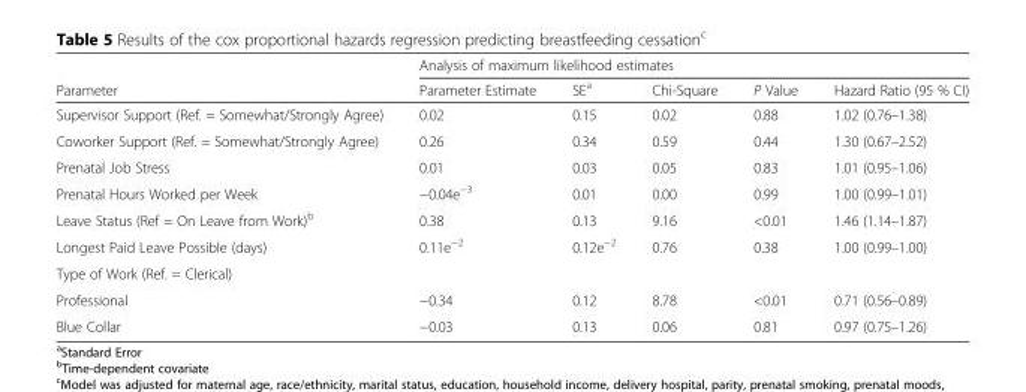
<table><thead><tr><td rowspan="2">Parameter</td><td colspan="5">Analysis of maximum likelihood estimates</td></tr><tr><td>Parameter Estimate</td><td>SE<sup>a</sup></td><td>Chi-Square</td><td>P Value</td><td>Hazard Ratio (95 % CI)</td></tr></thead><tbody><tr><td>Supervisor Support (Ref. = Somewhat/Strongly Agree)</td><td>0.02</td><td>0.15</td><td>0.02</td><td>0.88</td><td>1.02 (0.76–1.38)</td></tr><tr><td>Coworker Support (Ref. = Somewhat/Strongly Agree)</td><td>0.26</td><td>0.34</td><td>0.59</td><td>0.44</td><td>1.30 (0.67–2.52)</td></tr><tr><td>Prenatal Job Stress</td><td>0.01</td><td>0.03</td><td>0.05</td><td>0.83</td><td>1.01 (0.95–1.06)</td></tr><tr><td>Prenatal Hours Worked per Week</td><td>−0.04e<sup>−3</sup></td><td>0.01</td><td>0.00</td><td>0.99</td><td>1.00 (0.99–1.01)</td></tr><tr><td>Leave Status (Ref = On Leave from Work)<sup>b</sup></td><td>0.38</td><td>0.13</td><td>9.16</td><td>&lt;0.01</td><td>1.46 (1.14–1.87)</td></tr><tr><td>Longest Paid Leave Possible (days)</td><td>0.11e<sup>−2</sup></td><td>0.12e<sup>−2</sup></td><td>0.76</td><td>0.38</td><td>1.00 (0.99–1.00)</td></tr><tr><td colspan="6">Type of Work (Ref. = Clerical)</td></tr><tr><td>Professional</td><td>−0.34</td><td>0.12</td><td>8.78</td><td>&lt;0.01</td><td>0.71 (0.56–0.89)</td></tr><tr><td>Blue Collar</td><td>−0.03</td><td>0.13</td><td>0.06</td><td>0.81</td><td>0.97 (0.75–1.26)</td></tr></tbody></table>